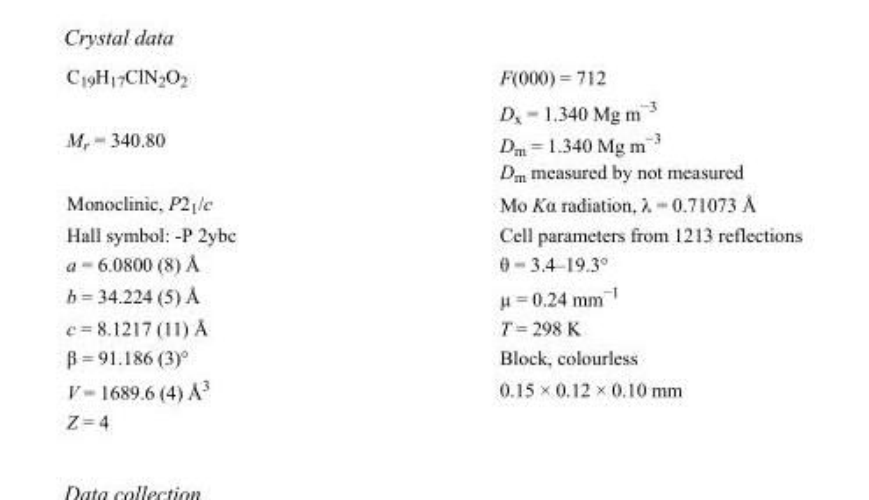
<table><tbody><tr><td>C<sub>19</sub>H<sub>17</sub>ClN<sub>2</sub>O<sub>2</sub></td><td>F(000) = 712</td></tr><tr><td>M<sub>r</sub> = 340.80</td><td>D<sub>x</sub> = 1.340 Mg m<sup>−3</sup> D<sub>m</sub> = 1.340 Mg m<sup>−3</sup> D<sub>m</sub> measured by not measured</td></tr><tr><td>Monoclinic, P2<sub>1</sub>/c</td><td>Mo Kα radiation, λ = 0.71073 Å</td></tr><tr><td>Hall symbol: -P 2ybc</td><td>Cell parameters from 1213 reflections</td></tr><tr><td>a = 6.0800 (8) Å</td><td>θ = 3.4–19.3°</td></tr><tr><td>b = 34.224 (5) Å</td><td>µ = 0.24 mm<sup>−1</sup></td></tr><tr><td>c = 8.1217 (11) Å</td><td>T = 298 K</td></tr><tr><td>β = 91.186 (3)°</td><td>Block, colourless</td></tr><tr><td>V = 1689.6 (4) Å<sup>3</sup></td><td>0.15 × 0.12 × 0.10 mm</td></tr><tr><td>Z = 4</td><td></td></tr></tbody></table>